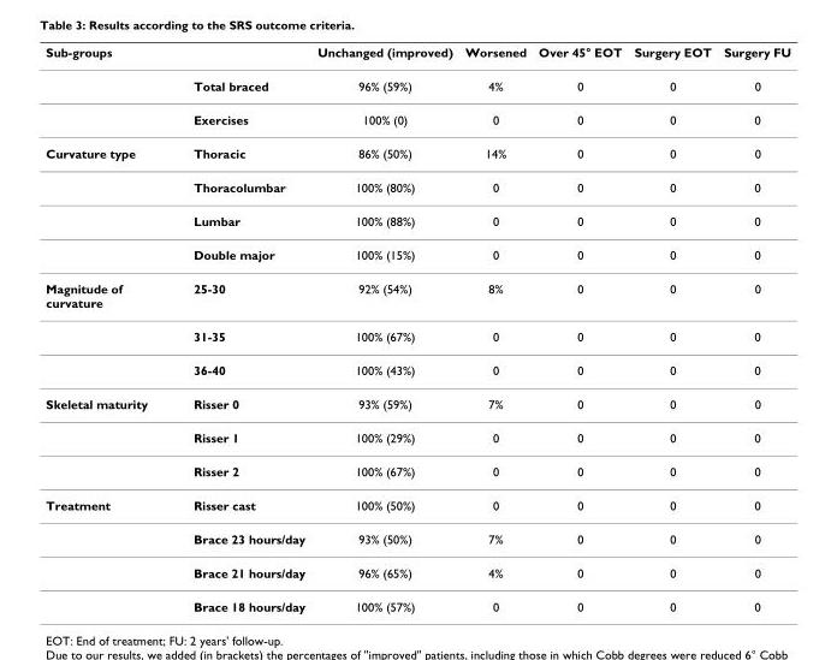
<table><thead><tr><td>Sub-groups</td><td></td><td>Unchanged (improved)</td><td>Worsened</td><td>Over 45° EOT</td><td>Surgery EOT</td><td>Surgery FU</td></tr></thead><tbody><tr><td></td><td>Total braced</td><td>96% (59%)</td><td>4%</td><td>0</td><td>0</td><td>0</td></tr><tr><td></td><td>Exercises</td><td>100% (0)</td><td>0</td><td>0</td><td>0</td><td>0</td></tr><tr><td rowspan="4">Curvature type</td><td>Thoracic</td><td>86% (50%)</td><td>14%</td><td>0</td><td>0</td><td>0</td></tr><tr><td>Thoracolumbar</td><td>100% (80%)</td><td>0</td><td>0</td><td>0</td><td>0</td></tr><tr><td>Lumbar</td><td>100% (88%)</td><td>0</td><td>0</td><td>0</td><td>0</td></tr><tr><td>Double major</td><td>100% (15%)</td><td>0</td><td>0</td><td>0</td><td>0</td></tr><tr><td rowspan="3">Magnitude of curvature</td><td>25-30</td><td>92% (54%)</td><td>8%</td><td>0</td><td>0</td><td>0</td></tr><tr><td>31-35</td><td>100% (67%)</td><td>0</td><td>0</td><td>0</td><td>0</td></tr><tr><td>36-40</td><td>100% (43%)</td><td>0</td><td>0</td><td>0</td><td>0</td></tr><tr><td rowspan="3">Skeletal maturity</td><td>Risser 0</td><td>93% (59%)</td><td>7%</td><td>0</td><td>0</td><td>0</td></tr><tr><td>Risser 1</td><td>100% (29%)</td><td>0</td><td>0</td><td>0</td><td>0</td></tr><tr><td>Risser 2</td><td>100% (67%)</td><td>0</td><td>0</td><td>0</td><td>0</td></tr><tr><td rowspan="4">Treatment</td><td>Risser cast</td><td>100% (50%)</td><td>0</td><td>0</td><td>0</td><td>0</td></tr><tr><td>Brace 23 hours/day</td><td>93% (50%)</td><td>7%</td><td>0</td><td>0</td><td>0</td></tr><tr><td>Brace 21 hours/day</td><td>96% (65%)</td><td>4%</td><td>0</td><td>0</td><td>0</td></tr><tr><td>Brace 18 hours/day</td><td>100% (57%)</td><td>0</td><td>0</td><td>0</td><td>0</td></tr></tbody></table>